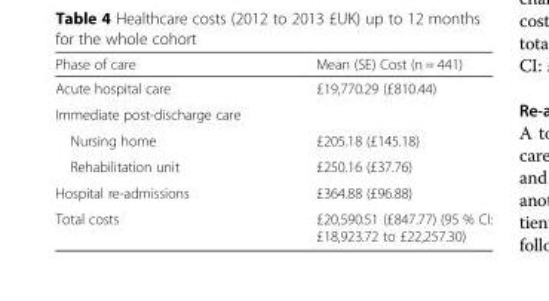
<table><thead><tr><td>Phase of care</td><td>Mean (SE) Cost (n = 441)</td></tr></thead><tbody><tr><td>Acute hospital care</td><td>£19,770.29 (£810.44)</td></tr><tr><td colspan="2">Immediate post-discharge care</td></tr><tr><td>Nursing home</td><td>£205.18 (£145.18)</td></tr><tr><td>Rehabilitation unit</td><td>£250.16 (£37.76)</td></tr><tr><td>Hospital re-admissions</td><td>£364.88 (£96.88)</td></tr><tr><td>Total costs</td><td>£20,590.51 (£847.77) (95 % CI: £18,923.72 to £22,257.30)</td></tr></tbody></table>